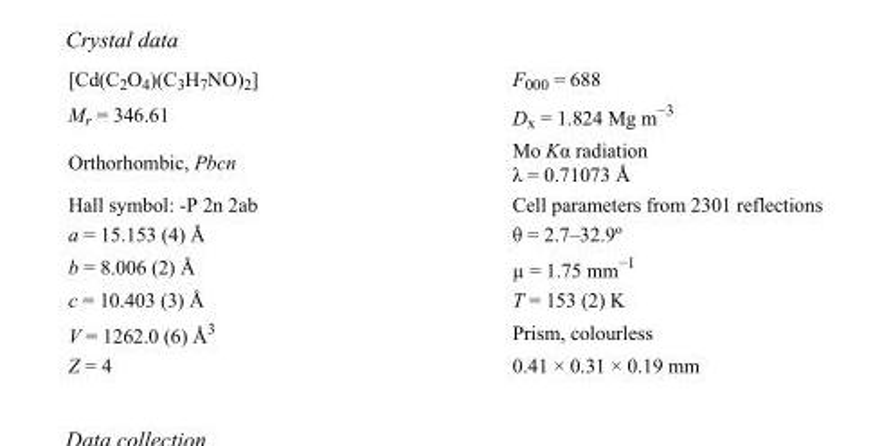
<table><tbody><tr><td>[Cd(C<sub>2</sub>O<sub>4</sub>)(C<sub>3</sub>H<sub>7</sub>NO)<sub>2</sub>]</td><td>F<sub>000</sub> = 688</td></tr><tr><td>M<sub>r</sub> = 346.61</td><td>D<sub>x</sub> = 1.824 Mg m<sup>−3</sup></td></tr><tr><td>Orthorhombic, Pbcn</td><td>Mo Kα radiation λ = 0.71073 Å</td></tr><tr><td>Hall symbol: -P 2n 2ab</td><td>Cell parameters from 2301 reflections</td></tr><tr><td>a = 15.153 (4) Å</td><td>θ = 2.7–32.9º</td></tr><tr><td>b = 8.006 (2) Å</td><td>µ = 1.75 mm<sup>−1</sup></td></tr><tr><td>c = 10.403 (3) Å</td><td>T = 153 (2) K</td></tr><tr><td>V = 1262.0 (6) Å<sup>3</sup></td><td>Prism, colourless</td></tr><tr><td>Z = 4</td><td>0.41 × 0.31 × 0.19 mm</td></tr></tbody></table>